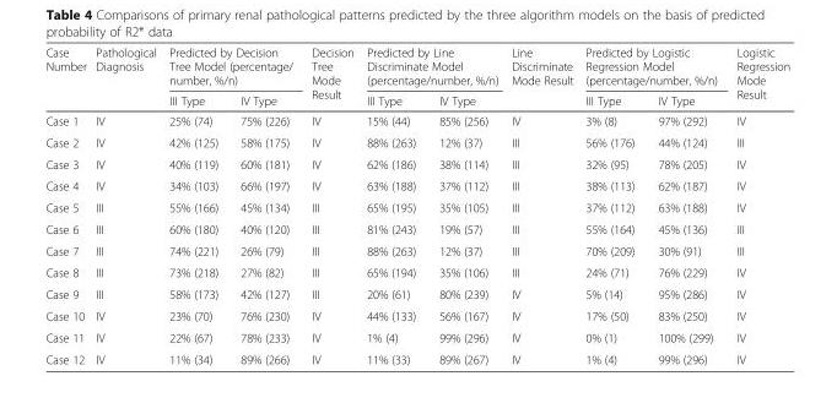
<table><thead><tr><td rowspan="2">Case Number</td><td rowspan="2">Pathological Diagnosis</td><td colspan="2">Predicted by Decision Tree Model (percentage/ number, %/n)</td><td rowspan="2">Decision Tree Mode Result</td><td colspan="2">Predicted by Line Discriminate Model (percentage/number, %/n)</td><td rowspan="2">Line Discriminate Mode Result</td><td colspan="2">Predicted by Logistic Regression Model (percentage/number, %/n)</td><td rowspan="2">Logistic Regression Mode Result</td></tr><tr><td>III Type</td><td>IV Type</td><td>III Type</td><td>IV Type</td><td>III Type</td><td>IV Type</td></tr></thead><tbody><tr><td>Case 1</td><td>IV</td><td>25% (74)</td><td>75% (226)</td><td>IV</td><td>15% (44)</td><td>85% (256)</td><td>IV</td><td>3% (8)</td><td>97% (292)</td><td>IV</td></tr><tr><td>Case 2</td><td>IV</td><td>42% (125)</td><td>58% (175)</td><td>IV</td><td>88% (263)</td><td>12% (37)</td><td>III</td><td>56% (176)</td><td>44% (124)</td><td>III</td></tr><tr><td>Case 3</td><td>IV</td><td>40% (119)</td><td>60% (181)</td><td>IV</td><td>62% (186)</td><td>38% (114)</td><td>III</td><td>32% (95)</td><td>78% (205)</td><td>IV</td></tr><tr><td>Case 4</td><td>IV</td><td>34% (103)</td><td>66% (197)</td><td>IV</td><td>63% (188)</td><td>37% (112)</td><td>III</td><td>38% (113)</td><td>62% (187)</td><td>IV</td></tr><tr><td>Case 5</td><td>III</td><td>55% (166)</td><td>45% (134)</td><td>III</td><td>65% (195)</td><td>35% (105)</td><td>III</td><td>37% (112)</td><td>63% (188)</td><td>IV</td></tr><tr><td>Case 6</td><td>III</td><td>60% (180)</td><td>40% (120)</td><td>III</td><td>81% (243)</td><td>19% (57)</td><td>III</td><td>55% (164)</td><td>45% (136)</td><td>III</td></tr><tr><td>Case 7</td><td>III</td><td>74% (221)</td><td>26% (79)</td><td>III</td><td>88% (263)</td><td>12% (37)</td><td>III</td><td>70% (209)</td><td>30% (91)</td><td>III</td></tr><tr><td>Case 8</td><td>III</td><td>73% (218)</td><td>27% (82)</td><td>III</td><td>65% (194)</td><td>35% (106)</td><td>III</td><td>24% (71)</td><td>76% (229)</td><td>IV</td></tr><tr><td>Case 9</td><td>III</td><td>58% (173)</td><td>42% (127)</td><td>III</td><td>20% (61)</td><td>80% (239)</td><td>IV</td><td>5% (14)</td><td>95% (286)</td><td>IV</td></tr><tr><td>Case 10</td><td>IV</td><td>23% (70)</td><td>76% (230)</td><td>IV</td><td>44% (133)</td><td>56% (167)</td><td>IV</td><td>17% (50)</td><td>83% (250)</td><td>IV</td></tr><tr><td>Case 11</td><td>IV</td><td>22% (67)</td><td>78% (233)</td><td>IV</td><td>1% (4)</td><td>99% (296)</td><td>IV</td><td>0% (1)</td><td>100% (299)</td><td>IV</td></tr><tr><td>Case 12</td><td>IV</td><td>11% (34)</td><td>89% (266)</td><td>IV</td><td>11% (33)</td><td>89% (267)</td><td>IV</td><td>1% (4)</td><td>99% (296)</td><td>IV</td></tr></tbody></table>